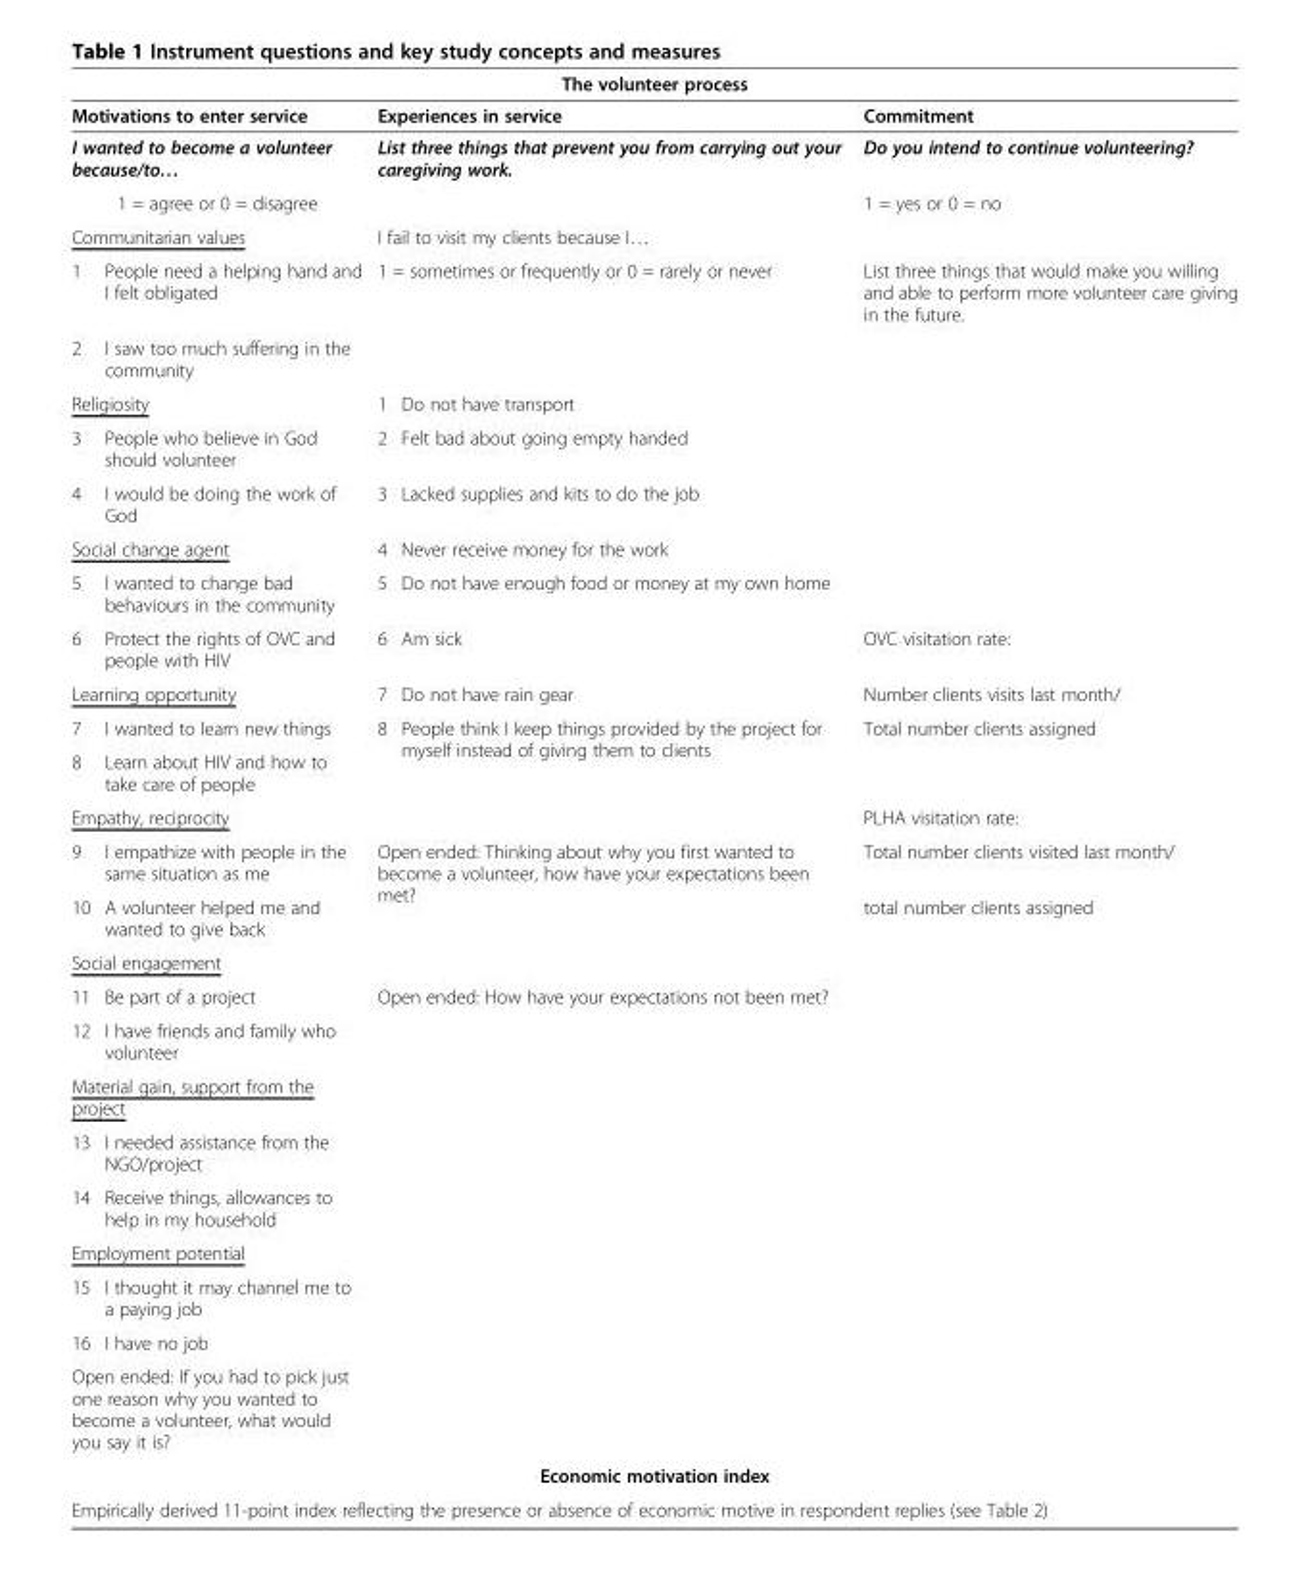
<table><thead><tr><td colspan="5">The volunteer process</td></tr><tr><td colspan="2">Motivations to enter service</td><td colspan="2">Experiences in service</td><td>Commitment</td></tr></thead><tbody><tr><td colspan="2">I wanted to become a volunteer because/to…</td><td colspan="2">List three things that prevent you from carrying out your caregiving work.</td><td>Do you intend to continue volunteering?</td></tr><tr><td colspan="2">1 = agree or 0 = disagree</td><td colspan="2"></td><td>1 = yes or 0 = no</td></tr><tr><td colspan="2">Communitarian values</td><td colspan="2">I fail to visit my clients because I…</td><td></td></tr><tr><td>1</td><td>People need a helping hand and I felt obligated</td><td colspan="2">1 = sometimes or frequently or 0 = rarely or never</td><td>List three things that would make you willing and able to perform more volunteer care giving in the future.</td></tr><tr><td>2</td><td>I saw too much suffering in the community</td><td colspan="2"></td><td></td></tr><tr><td colspan="2">Religiosity</td><td>1</td><td>Do not have transport</td><td></td></tr><tr><td>3</td><td>People who believe in God should volunteer</td><td>2</td><td>Felt bad about going empty handed</td><td></td></tr><tr><td>4</td><td>I would be doing the work of God</td><td>3</td><td>Lacked supplies and kits to do the job</td><td></td></tr><tr><td colspan="2">Social change agent</td><td>4</td><td>Never receive money for the work</td><td></td></tr><tr><td>5</td><td>I wanted to change bad behaviours in the community</td><td>5</td><td>Do not have enough food or money at my own home</td><td></td></tr><tr><td>6</td><td>Protect the rights of OVC and people with HIV</td><td>6</td><td>Am sick</td><td>OVC visitation rate:</td></tr><tr><td colspan="2">Learning opportunity</td><td>7</td><td>Do not have rain gear</td><td>Number clients visits last month/</td></tr><tr><td>7</td><td>I wanted to learn new things</td><td>8</td><td rowspan="2">People think I keep things provided by the project for myself instead of giving them to clients</td><td>Total number clients assigned</td></tr><tr><td>8</td><td>Learn about HIV and how to take care of people</td><td></td><td></td></tr><tr><td colspan="2">Empathy, reciprocity</td><td colspan="2"></td><td>PLHA visitation rate:</td></tr><tr><td>9</td><td>I empathize with people in the same situation as me</td><td rowspan="2" colspan="2">Open ended: Thinking about why you first wanted to become a volunteer, how have your expectations been met?</td><td>Total number clients visited last month/</td></tr><tr><td>10</td><td>A volunteer helped me and wanted to give back</td><td>total number clients assigned</td></tr><tr><td colspan="5">Social engagement</td></tr><tr><td>11</td><td>Be part of a project</td><td colspan="2">Open ended: How have your expectations not been met?</td><td></td></tr><tr><td>12</td><td>I have friends and family who volunteer</td><td colspan="2"></td><td></td></tr><tr><td colspan="5">Material gain, support from the project</td></tr><tr><td>13</td><td>I needed assistance from the NGO/project</td><td colspan="2"></td><td></td></tr><tr><td>14</td><td>Receive things, allowances to help in my household</td><td colspan="2"></td><td></td></tr><tr><td colspan="5">Employment potential</td></tr><tr><td>15</td><td>I thought it may channel me to a paying job</td><td colspan="2"></td><td></td></tr><tr><td>16</td><td>I have no job</td><td colspan="2"></td><td></td></tr><tr><td colspan="5">Open ended: If you had to pick just one reason why you wanted to become a volunteer, what would you say it is?</td></tr><tr><td colspan="5">Economic motivation index</td></tr><tr><td colspan="5">Empirically derived 11-point index reflecting the presence or absence of economic motive in respondent replies (see Table 2)</td></tr></tbody></table>